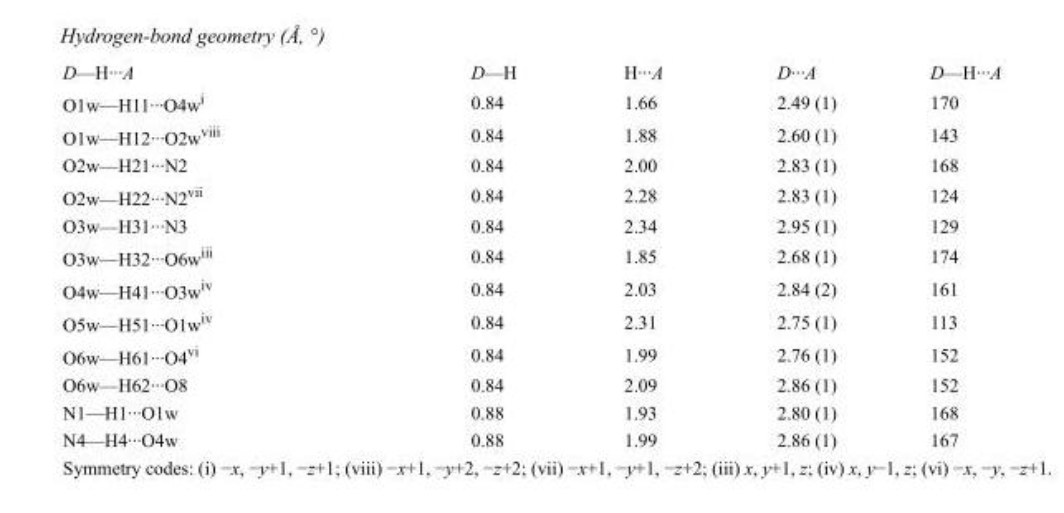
<table><tbody><tr><td>D—H···A</td><td>D—H</td><td>H···A</td><td>D···A</td><td>D—H···A</td></tr><tr><td>O1w—H11···O4w<sup>i</sup></td><td>0.84</td><td>1.66</td><td>2.49 (1)</td><td>170</td></tr><tr><td>O1w—H12···O2w<sup>viii</sup></td><td>0.84</td><td>1.88</td><td>2.60 (1)</td><td>143</td></tr><tr><td>O2w—H21···N2</td><td>0.84</td><td>2.00</td><td>2.83 (1)</td><td>168</td></tr><tr><td>O2w—H22···N2<sup>vii</sup></td><td>0.84</td><td>2.28</td><td>2.83 (1)</td><td>124</td></tr><tr><td>O3w—H31···N3</td><td>0.84</td><td>2.34</td><td>2.95 (1)</td><td>129</td></tr><tr><td>O3w—H32···O6w<sup>iii</sup></td><td>0.84</td><td>1.85</td><td>2.68 (1)</td><td>174</td></tr><tr><td>O4w—H41···O3w<sup>iv</sup></td><td>0.84</td><td>2.03</td><td>2.84 (2)</td><td>161</td></tr><tr><td>O5w—H51···O1w<sup>iv</sup></td><td>0.84</td><td>2.31</td><td>2.75 (1)</td><td>113</td></tr><tr><td>O6w—H61···O4<sup>vi</sup></td><td>0.84</td><td>1.99</td><td>2.76 (1)</td><td>152</td></tr><tr><td>O6w—H62···O8</td><td>0.84</td><td>2.09</td><td>2.86 (1)</td><td>152</td></tr><tr><td>N1—H1···O1w</td><td>0.88</td><td>1.93</td><td>2.80 (1)</td><td>168</td></tr><tr><td>N4—H4···O4w</td><td>0.88</td><td>1.99</td><td>2.86 (1)</td><td>167</td></tr></tbody></table>